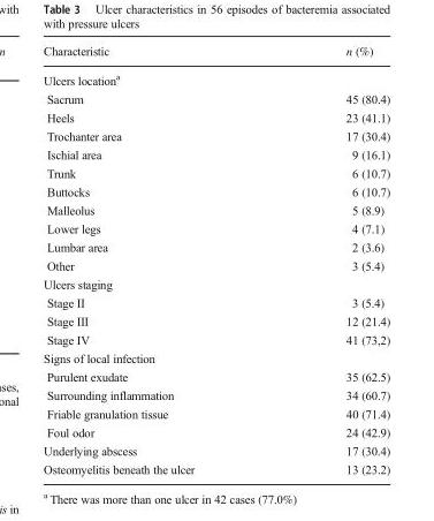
<table><thead><tr><td>Characteristic</td><td>n (%)</td></tr></thead><tbody><tr><td colspan="2">Ulcers location<sup>a</sup></td></tr><tr><td>Sacrum</td><td>45 (80.4)</td></tr><tr><td>Heels</td><td>23 (41.1)</td></tr><tr><td>Trochanter area</td><td>17 (30.4)</td></tr><tr><td>Ischial area</td><td>9 (16.1)</td></tr><tr><td>Trunk</td><td>6 (10.7)</td></tr><tr><td>Buttocks</td><td>6 (10.7)</td></tr><tr><td>Malleolus</td><td>5 (8.9)</td></tr><tr><td>Lower legs</td><td>4 (7.1)</td></tr><tr><td>Lumbar area</td><td>2 (3.6)</td></tr><tr><td>Other</td><td>3 (5.4)</td></tr><tr><td colspan="2">Ulcers staging</td></tr><tr><td>Stage II</td><td>3 (5.4)</td></tr><tr><td>Stage III</td><td>12 (21.4)</td></tr><tr><td>Stage IV</td><td>41 (73,2)</td></tr><tr><td colspan="2">Signs of local infection</td></tr><tr><td>Purulent exudate</td><td>35 (62.5)</td></tr><tr><td>Surrounding inflammation</td><td>34 (60.7)</td></tr><tr><td>Friable granulation tissue</td><td>40 (71.4)</td></tr><tr><td>Foul odor</td><td>24 (42.9)</td></tr><tr><td>Underlying abscess</td><td>17 (30.4)</td></tr><tr><td>Osteomyelitis beneath the ulcer</td><td>13 (23.2)</td></tr></tbody></table>